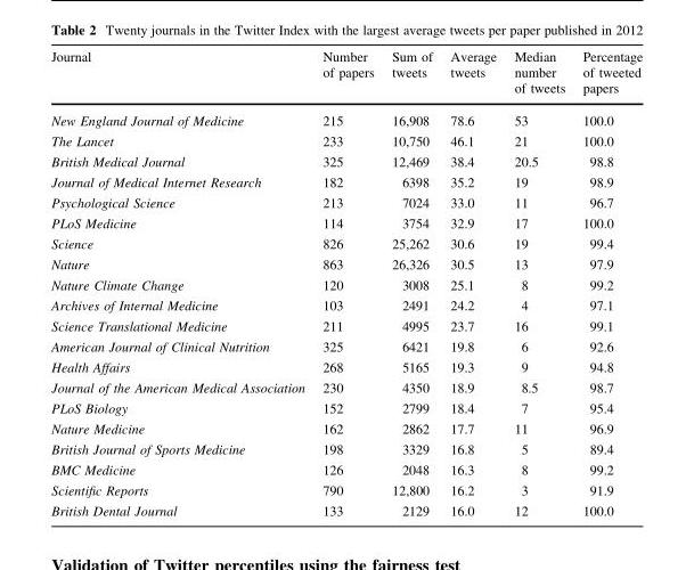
<table><thead><tr><td>Journal</td><td>Number of papers</td><td>Sum of tweets</td><td>Average tweets</td><td>Median number of tweets</td><td>Percentage of tweeted papers</td></tr></thead><tbody><tr><td>New England Journal of Medicine</td><td>215</td><td>16,908</td><td>78.6</td><td>53</td><td>100.0</td></tr><tr><td>The Lancet</td><td>233</td><td>10,750</td><td>46.1</td><td>21</td><td>100.0</td></tr><tr><td>British Medical Journal</td><td>325</td><td>12,469</td><td>38.4</td><td>20.5</td><td>98.8</td></tr><tr><td>Journal of Medical Internet Research</td><td>182</td><td>6398</td><td>35.2</td><td>19</td><td>98.9</td></tr><tr><td>Psychological Science</td><td>213</td><td>7024</td><td>33.0</td><td>11</td><td>96.7</td></tr><tr><td>PLoS Medicine</td><td>114</td><td>3754</td><td>32.9</td><td>17</td><td>100.0</td></tr><tr><td>Science</td><td>826</td><td>25,262</td><td>30.6</td><td>19</td><td>99.4</td></tr><tr><td>Nature</td><td>863</td><td>26,326</td><td>30.5</td><td>13</td><td>97.9</td></tr><tr><td>Nature Climate Change</td><td>120</td><td>3008</td><td>25.1</td><td>8</td><td>99.2</td></tr><tr><td>Archives of Internal Medicine</td><td>103</td><td>2491</td><td>24.2</td><td>4</td><td>97.1</td></tr><tr><td>Science Translational Medicine</td><td>211</td><td>4995</td><td>23.7</td><td>16</td><td>99.1</td></tr><tr><td>American Journal of Clinical Nutrition</td><td>325</td><td>6421</td><td>19.8</td><td>6</td><td>92.6</td></tr><tr><td>Health Affairs</td><td>268</td><td>5165</td><td>19.3</td><td>9</td><td>94.8</td></tr><tr><td>Journal of the American Medical Association</td><td>230</td><td>4350</td><td>18.9</td><td>8.5</td><td>98.7</td></tr><tr><td>PLoS Biology</td><td>152</td><td>2799</td><td>18.4</td><td>7</td><td>95.4</td></tr><tr><td>Nature Medicine</td><td>162</td><td>2862</td><td>17.7</td><td>11</td><td>96.9</td></tr><tr><td>British Journal of Sports Medicine</td><td>198</td><td>3329</td><td>16.8</td><td>5</td><td>89.4</td></tr><tr><td>BMC Medicine</td><td>126</td><td>2048</td><td>16.3</td><td>8</td><td>99.2</td></tr><tr><td>Scientific Reports</td><td>790</td><td>12,800</td><td>16.2</td><td>3</td><td>91.9</td></tr><tr><td>British Dental Journal</td><td>133</td><td>2129</td><td>16.0</td><td>12</td><td>100.0</td></tr></tbody></table>